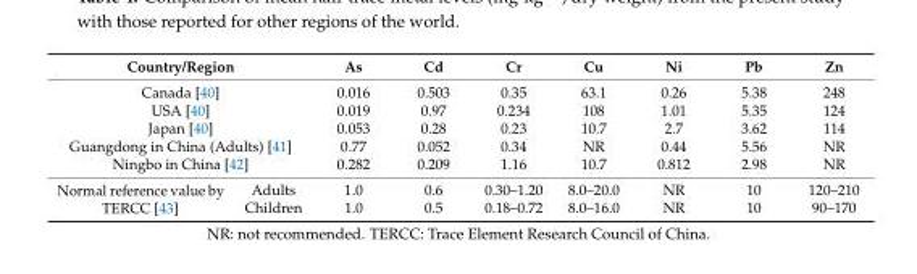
<table><thead><tr><td colspan="2">Country/Region</td><td>As</td><td>Cd</td><td>Cr</td><td>Cu</td><td>Ni</td><td>Pb</td><td>Zn</td></tr></thead><tbody><tr><td colspan="2">Canada [40]</td><td>0.016</td><td>0.503</td><td>0.35</td><td>63.1</td><td>0.26</td><td>5.38</td><td>248</td></tr><tr><td colspan="2">USA [40]</td><td>0.019</td><td>0.97</td><td>0.234</td><td>108</td><td>1.01</td><td>5.35</td><td>124</td></tr><tr><td colspan="2">Japan [40]</td><td>0.053</td><td>0.28</td><td>0.23</td><td>10.7</td><td>2.7</td><td>3.62</td><td>114</td></tr><tr><td colspan="2">Guangdong in China (Adults) [41]</td><td>0.77</td><td>0.052</td><td>0.34</td><td>NR</td><td>0.44</td><td>5.56</td><td>NR</td></tr><tr><td colspan="2">Ningbo in China [42]</td><td>0.282</td><td>0.209</td><td>1.16</td><td>10.7</td><td>0.812</td><td>2.98</td><td>NR</td></tr><tr><td rowspan="2">Normal reference value by TERCC [43]</td><td>Adults</td><td>1.0</td><td>0.6</td><td>0.30–1.20</td><td>8.0–20.0</td><td>NR</td><td>10</td><td>120–210</td></tr><tr><td>Children</td><td>1.0</td><td>0.5</td><td>0.18–0.72</td><td>8.0–16.0</td><td>NR</td><td>10</td><td>90–170</td></tr></tbody></table>